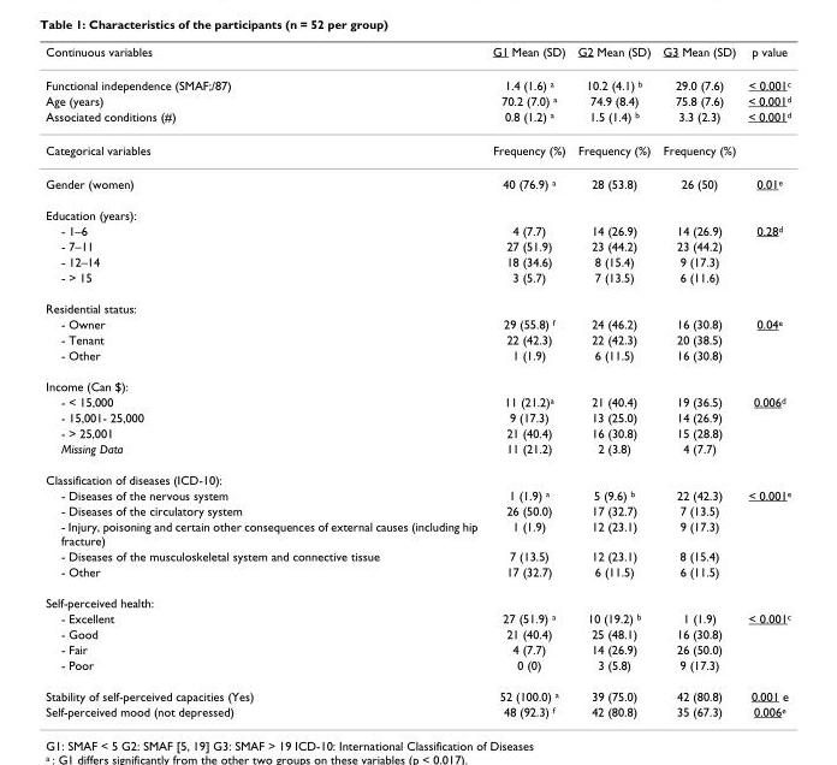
<table><thead><tr><td>Continuous variables</td><td>G1 Mean (SD)</td><td>G2 Mean (SD)</td><td>G3 Mean (SD)</td><td>p value</td></tr></thead><tbody><tr><td>Functional independence (SMAF;/87)</td><td>1.4 (1.6) <sup>a</sup></td><td>10.2 (4.1) <sup>b</sup></td><td>29.0 (7.6)</td><td>&lt; 0.001<sup>c</sup></td></tr><tr><td>Age (years)</td><td>70.2 (7.0) <sup>a</sup></td><td>74.9 (8.4)</td><td>75.8 (7.6)</td><td>&lt; 0.001<sup>d</sup></td></tr><tr><td>Associated conditions (#)</td><td>0.8 (1.2) <sup>a</sup></td><td>1.5 (1.4) <sup>b</sup></td><td>3.3 (2.3)</td><td>&lt; 0.001<sup>d</sup></td></tr><tr><td>Categorical variables</td><td>Frequency (%)</td><td>Frequency (%)</td><td>Frequency (%)</td><td></td></tr><tr><td>Gender (women)</td><td>40 (76.9) <sup>a</sup></td><td>28 (53.8)</td><td>26 (50)</td><td>0.01<sup>e</sup></td></tr><tr><td colspan="5">Education (years):</td></tr><tr><td>- 1–6</td><td>4 (7.7)</td><td>14 (26.9)</td><td>14 (26.9)</td><td>0.28<sup>d</sup></td></tr><tr><td>- 7–11</td><td>27 (51.9)</td><td>23 (44.2)</td><td>23 (44.2)</td><td></td></tr><tr><td>- 12–14</td><td>18 (34.6)</td><td>8 (15.4)</td><td>9 (17.3)</td><td></td></tr><tr><td>- &gt; 15</td><td>3 (5.7)</td><td>7 (13.5)</td><td>6 (11.6)</td><td></td></tr><tr><td colspan="5">Residential status:</td></tr><tr><td>- Owner</td><td>29 (55.8) <sup>f</sup></td><td>24 (46.2)</td><td>16 (30.8)</td><td>0.04<sup>e</sup></td></tr><tr><td>- Tenant</td><td>22 (42.3)</td><td>22 (42.3)</td><td>20 (38.5)</td><td></td></tr><tr><td>- Other</td><td>1 (1.9)</td><td>6 (11.5)</td><td>16 (30.8)</td><td></td></tr><tr><td colspan="5">Income (Can $):</td></tr><tr><td>- &lt; 15,000</td><td>11 (21.2)<sup>a</sup></td><td>21 (40.4)</td><td>19 (36.5)</td><td>0.006<sup>d</sup></td></tr><tr><td>- 15,001- 25,000</td><td>9 (17.3)</td><td>13 (25.0)</td><td>14 (26.9)</td><td></td></tr><tr><td>- &gt; 25,001</td><td>21 (40.4)</td><td>16 (30.8)</td><td>15 (28.8)</td><td></td></tr><tr><td>Missing Data</td><td>11 (21.2)</td><td>2 (3.8)</td><td>4 (7.7)</td><td></td></tr><tr><td colspan="5">Classification of diseases (ICD-10):</td></tr><tr><td>- Diseases of the nervous system</td><td>1 (1.9) <sup>a</sup></td><td>5 (9.6) <sup>b</sup></td><td>22 (42.3)</td><td>&lt; 0.001<sup>e</sup></td></tr><tr><td>- Diseases of the circulatory system</td><td>26 (50.0)</td><td>17 (32.7)</td><td>7 (13.5)</td><td></td></tr><tr><td>- Injury, poisoning and certain other consequences of external causes (including hip fracture)</td><td>1 (1.9)</td><td>12 (23.1)</td><td>9 (17.3)</td><td></td></tr><tr><td>- Diseases of the musculoskeletal system and connective tissue</td><td>7 (13.5)</td><td>12 (23.1)</td><td>8 (15.4)</td><td></td></tr><tr><td>- Other</td><td>17 (32.7)</td><td>6 (11.5)</td><td>6 (11.5)</td><td></td></tr><tr><td colspan="5">Self-perceived health:</td></tr><tr><td>- Excellent</td><td>27 (51.9) <sup>a</sup></td><td>10 (19.2) <sup>b</sup></td><td>1 (1.9)</td><td>&lt; 0.001<sup>c</sup></td></tr><tr><td>- Good</td><td>21 (40.4)</td><td>25 (48.1)</td><td>16 (30.8)</td><td></td></tr><tr><td>- Fair</td><td>4 (7.7)</td><td>14 (26.9)</td><td>26 (50.0)</td><td></td></tr><tr><td>- Poor</td><td>0 (0)</td><td>3 (5.8)</td><td>9 (17.3)</td><td></td></tr><tr><td>Stability of self-perceived capacities (Yes)</td><td>52 (100.0) <sup>a</sup></td><td>39 (75.0)</td><td>42 (80.8)</td><td>0.001 e</td></tr><tr><td>Self-perceived mood (not depressed)</td><td>48 (92.3) <sup>f</sup></td><td>42 (80.8)</td><td>35 (67.3)</td><td>0.006<sup>e</sup></td></tr></tbody></table>